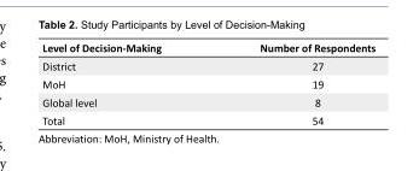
<table><tbody><tr><td>Level of Decision-Making</td><td>Number of Respondents</td></tr><tr><td>District</td><td>27</td></tr><tr><td>MoH</td><td>19</td></tr><tr><td>Global level</td><td>8</td></tr><tr><td>Total</td><td>54</td></tr></tbody></table>